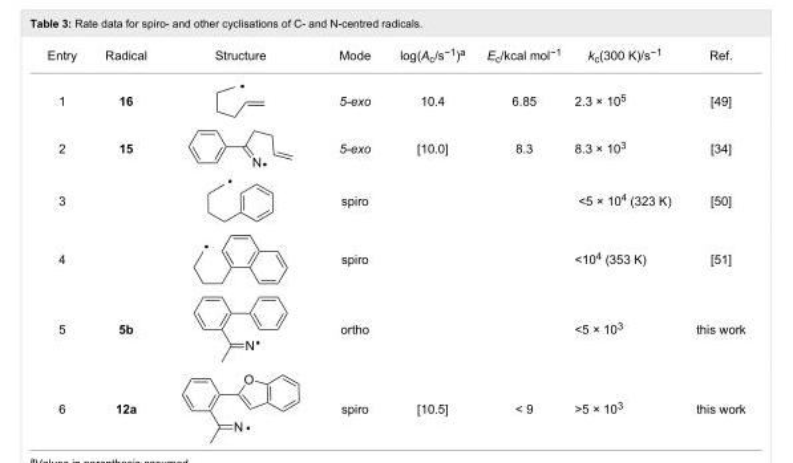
<table><tbody><tr><td>Entry</td><td>Radical</td><td>Structure</td><td>Mode</td><td>log(A<sub>c</sub>/s<sup>−1</sup>)<sup>a</sup></td><td>E<sub>c</sub>/kcal mol<sup>−1</sup></td><td>k<sub>c</sub>(300 K)/s<sup>−1</sup></td><td>Ref.</td></tr><tr><td>1</td><td>16</td><td></td><td>5-exo</td><td>10.4</td><td>6.85</td><td>2.3 × 10<sup>5</sup></td><td>[49]</td></tr><tr><td>2</td><td>15</td><td></td><td>5-exo</td><td>[10.0]</td><td>8.3</td><td>8.3 × 10<sup>3</sup></td><td>[34]</td></tr><tr><td>3</td><td></td><td></td><td>spiro</td><td></td><td></td><td>&lt;5 × 10<sup>4</sup> (323 K)</td><td>[50]</td></tr><tr><td>4</td><td></td><td></td><td>spiro</td><td></td><td></td><td>&lt;10<sup>4</sup> (353 K)</td><td>[51]</td></tr><tr><td>5</td><td>5b</td><td></td><td>ortho</td><td></td><td></td><td>&lt;5 × 10<sup>3</sup></td><td>this work</td></tr><tr><td>6</td><td>12a</td><td></td><td>spiro</td><td>[10.5]</td><td>&lt; 9</td><td>&gt;5 × 10<sup>3</sup></td><td>this work</td></tr></tbody></table>